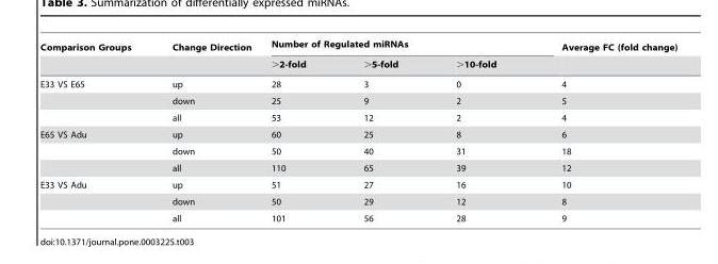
<table><thead><tr><td rowspan="2">Comparison Groups</td><td rowspan="2">Change Direction</td><td colspan="3">Number of Regulated miRNAs</td><td rowspan="2">Average FC (fold change)</td></tr><tr><td>&gt;2-fold</td><td>&gt;5-fold</td><td>&gt;10-fold</td></tr></thead><tbody><tr><td rowspan="3">E33 VS E65</td><td>up</td><td>28</td><td>3</td><td>0</td><td>4</td></tr><tr><td>down</td><td>25</td><td>9</td><td>2</td><td>5</td></tr><tr><td>all</td><td>53</td><td>12</td><td>2</td><td>4</td></tr><tr><td rowspan="3">E65 VS Adu</td><td>up</td><td>60</td><td>25</td><td>8</td><td>6</td></tr><tr><td>down</td><td>50</td><td>40</td><td>31</td><td>18</td></tr><tr><td>all</td><td>110</td><td>65</td><td>39</td><td>12</td></tr><tr><td rowspan="3">E33 VS Adu</td><td>up</td><td>51</td><td>27</td><td>16</td><td>10</td></tr><tr><td>down</td><td>50</td><td>29</td><td>12</td><td>8</td></tr><tr><td>all</td><td>101</td><td>56</td><td>28</td><td>9</td></tr></tbody></table>